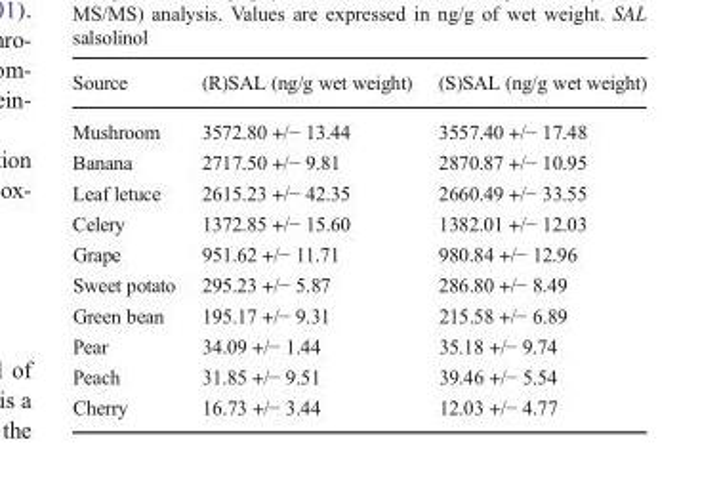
<table><thead><tr><td>Source</td><td>(R)SAL (ng/g wet weight)</td><td>(S)SAL (ng/g wet weight)</td></tr></thead><tbody><tr><td>Mushroom</td><td>3572.80 +/− 13.44</td><td>3557.40 +/− 17.48</td></tr><tr><td>Banana</td><td>2717.50 +/− 9.81</td><td>2870.87 +/− 10.95</td></tr><tr><td>Leaf letuce</td><td>2615.23 +/− 42.35</td><td>2660.49 +/− 33.55</td></tr><tr><td>Celery</td><td>1372.85 +/− 15.60</td><td>1382.01 +/− 12.03</td></tr><tr><td>Grape</td><td>951.62 +/− 11.71</td><td>980.84 +/− 12.96</td></tr><tr><td>Sweet potato</td><td>295.23 +/− 5.87</td><td>286.80 +/− 8.49</td></tr><tr><td>Green bean</td><td>195.17 +/− 9.31</td><td>215.58 +/− 6.89</td></tr><tr><td>Pear</td><td>34.09 +/− 1.44</td><td>35.18 +/− 9.74</td></tr><tr><td>Peach</td><td>31.85 +/− 9.51</td><td>39.46 +/− 5.54</td></tr><tr><td>Cherry</td><td>16.73 +/− 3.44</td><td>12.03 +/− 4.77</td></tr></tbody></table>